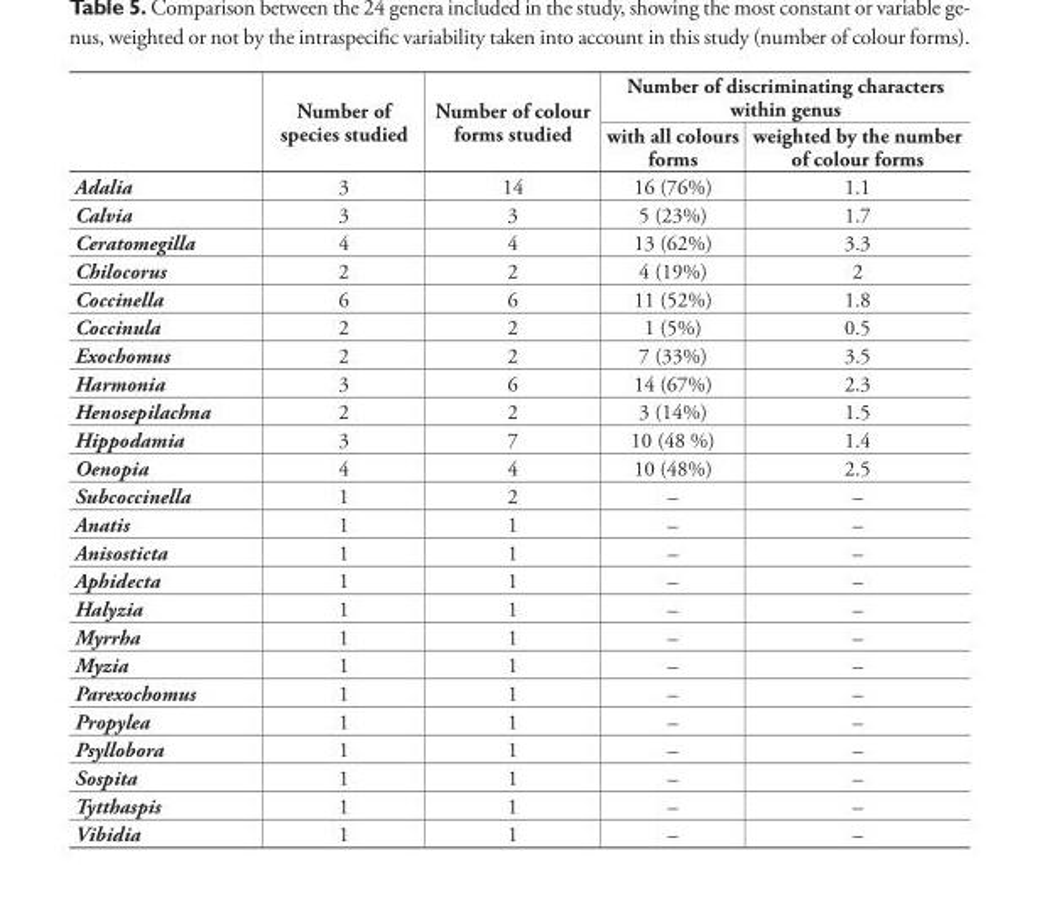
<table><thead><tr><td rowspan="2"></td><td rowspan="2">Number of species studied</td><td rowspan="2">Number of colour forms studied</td><td colspan="2">Number of discriminating characters within genus</td></tr><tr><td>with all colours forms</td><td>weighted by the number of colour forms</td></tr></thead><tbody><tr><td>Adalia</td><td>3</td><td>14</td><td>16 (76%)</td><td>1.1</td></tr><tr><td>Calvia</td><td>3</td><td>3</td><td>5 (23%)</td><td>1.7</td></tr><tr><td>Ceratomegilla</td><td>4</td><td>4</td><td>13 (62%)</td><td>3.3</td></tr><tr><td>Chilocorus</td><td>2</td><td>2</td><td>4 (19%)</td><td>2</td></tr><tr><td>Coccinella</td><td>6</td><td>6</td><td>11 (52%)</td><td>1.8</td></tr><tr><td>Coccinula</td><td>2</td><td>2</td><td>1 (5%)</td><td>0.5</td></tr><tr><td>Exochomus</td><td>2</td><td>2</td><td>7 (33%)</td><td>3.5</td></tr><tr><td>Harmonia</td><td>3</td><td>6</td><td>14 (67%)</td><td>2.3</td></tr><tr><td>Henosepilachna</td><td>2</td><td>2</td><td>3 (14%)</td><td>1.5</td></tr><tr><td>Hippodamia</td><td>3</td><td>7</td><td>10 (48 %)</td><td>1.4</td></tr><tr><td>Oenopia</td><td>4</td><td>4</td><td>10 (48%)</td><td>2.5</td></tr><tr><td>Subcoccinella</td><td>1</td><td>2</td><td>–</td><td>–</td></tr><tr><td>Anatis</td><td>1</td><td>1</td><td>–</td><td>–</td></tr><tr><td>Anisosticta</td><td>1</td><td>1</td><td>–</td><td>–</td></tr><tr><td>Aphidecta</td><td>1</td><td>1</td><td>–</td><td>–</td></tr><tr><td>Halyzia</td><td>1</td><td>1</td><td>–</td><td>–</td></tr><tr><td>Myrrha</td><td>1</td><td>1</td><td>–</td><td>–</td></tr><tr><td>Myzia</td><td>1</td><td>1</td><td>–</td><td>–</td></tr><tr><td>Parexochomus</td><td>1</td><td>1</td><td>–</td><td>–</td></tr><tr><td>Propylea</td><td>1</td><td>1</td><td>–</td><td>–</td></tr><tr><td>Psyllobora</td><td>1</td><td>1</td><td>–</td><td>–</td></tr><tr><td>Sospita</td><td>1</td><td>1</td><td>–</td><td>–</td></tr><tr><td>Tytthaspis</td><td>1</td><td>1</td><td>–</td><td>–</td></tr><tr><td>Vibidia</td><td>1</td><td>1</td><td>–</td><td>–</td></tr></tbody></table>